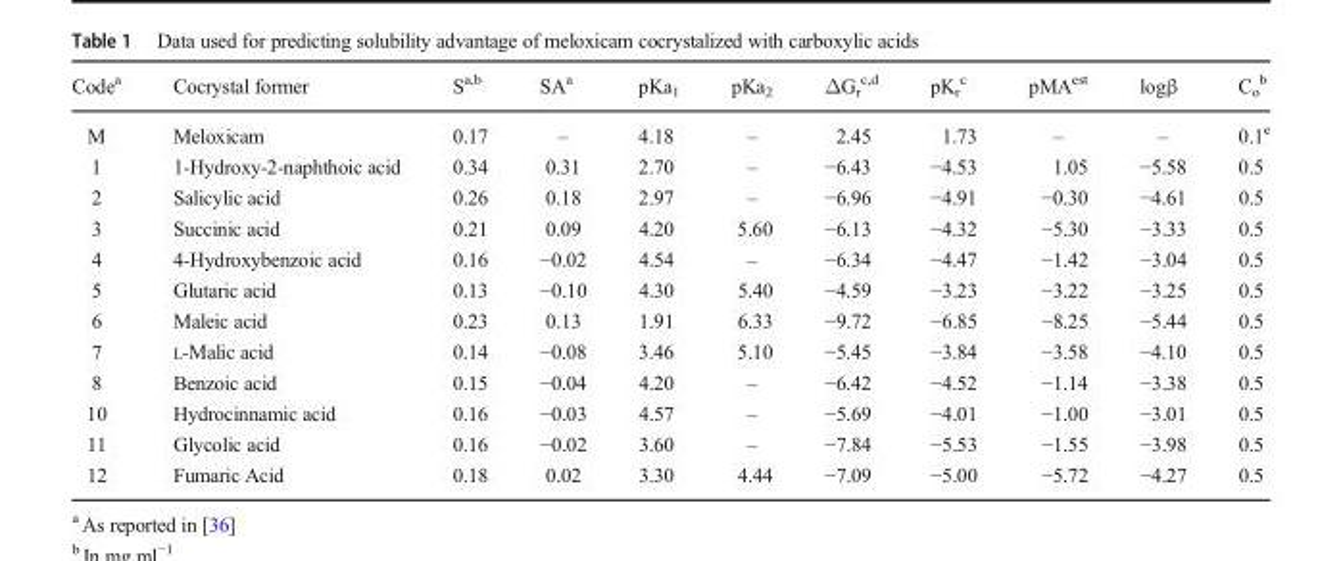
<table><thead><tr><td>Code<sup>a</sup></td><td>Cocrystal former</td><td>S<sup>a,b</sup></td><td>SA<sup>a</sup></td><td>pKa<sub>1</sub></td><td>pKa<sub>2</sub></td><td>ΔG<sub>r</sub> <sup>c,d</sup></td><td>pK<sub>r</sub> <sup>c</sup></td><td>pMA<sup>est</sup></td><td>logβ</td><td>C<sub>o</sub> <sup>b</sup></td></tr></thead><tbody><tr><td>M</td><td>Meloxicam</td><td>0.17</td><td>–</td><td>4.18</td><td>–</td><td>2.45</td><td>1.73</td><td>–</td><td>–</td><td>0.1<sup>e</sup></td></tr><tr><td>1</td><td>1-Hydroxy-2-naphthoic acid</td><td>0.34</td><td>0.31</td><td>2.70</td><td>–</td><td>−6.43</td><td>−4.53</td><td>1.05</td><td>−5.58</td><td>0.5</td></tr><tr><td>2</td><td>Salicylic acid</td><td>0.26</td><td>0.18</td><td>2.97</td><td>–</td><td>−6.96</td><td>−4.91</td><td>−0.30</td><td>−4.61</td><td>0.5</td></tr><tr><td>3</td><td>Succinic acid</td><td>0.21</td><td>0.09</td><td>4.20</td><td>5.60</td><td>−6.13</td><td>−4.32</td><td>−5.30</td><td>−3.33</td><td>0.5</td></tr><tr><td>4</td><td>4-Hydroxybenzoic acid</td><td>0.16</td><td>−0.02</td><td>4.54</td><td>–</td><td>−6.34</td><td>−4.47</td><td>−1.42</td><td>−3.04</td><td>0.5</td></tr><tr><td>5</td><td>Glutaric acid</td><td>0.13</td><td>−0.10</td><td>4.30</td><td>5.40</td><td>−4.59</td><td>−3.23</td><td>−3.22</td><td>−3.25</td><td>0.5</td></tr><tr><td>6</td><td>Maleic acid</td><td>0.23</td><td>0.13</td><td>1.91</td><td>6.33</td><td>−9.72</td><td>−6.85</td><td>−8.25</td><td>−5.44</td><td>0.5</td></tr><tr><td>7</td><td>L-Malic acid</td><td>0.14</td><td>−0.08</td><td>3.46</td><td>5.10</td><td>−5.45</td><td>−3.84</td><td>−3.58</td><td>−4.10</td><td>0.5</td></tr><tr><td>8</td><td>Benzoic acid</td><td>0.15</td><td>−0.04</td><td>4.20</td><td>–</td><td>−6.42</td><td>−4.52</td><td>−1.14</td><td>−3.38</td><td>0.5</td></tr><tr><td>10</td><td>Hydrocinnamic acid</td><td>0.16</td><td>−0.03</td><td>4.57</td><td>–</td><td>−5.69</td><td>−4.01</td><td>−1.00</td><td>−3.01</td><td>0.5</td></tr><tr><td>11</td><td>Glycolic acid</td><td>0.16</td><td>−0.02</td><td>3.60</td><td>–</td><td>−7.84</td><td>−5.53</td><td>−1.55</td><td>−3.98</td><td>0.5</td></tr><tr><td>12</td><td>Fumaric Acid</td><td>0.18</td><td>0.02</td><td>3.30</td><td>4.44</td><td>−7.09</td><td>−5.00</td><td>−5.72</td><td>−4.27</td><td>0.5</td></tr></tbody></table>